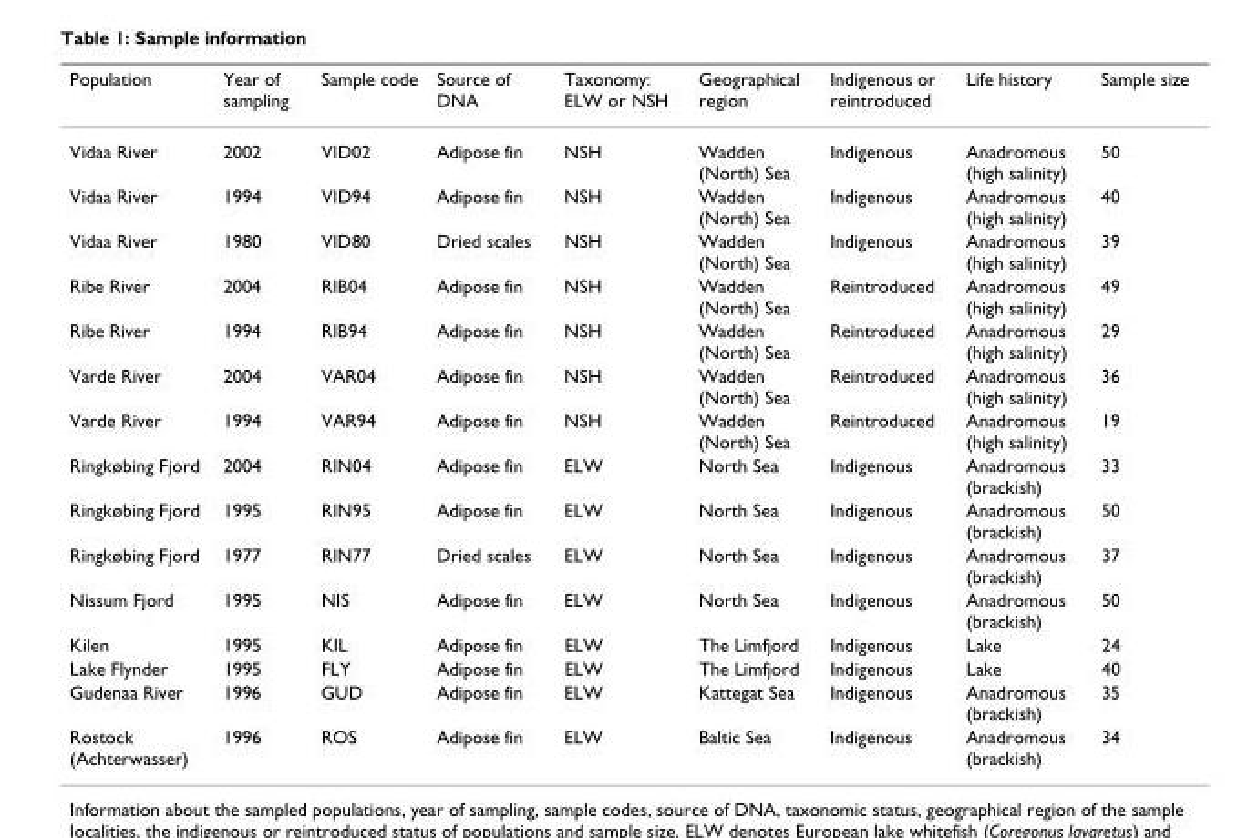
<table><thead><tr><td>Population</td><td>Year of sampling</td><td>Sample code</td><td>Source of DNA</td><td>Taxonomy: ELW or NSH</td><td>Geographical region</td><td>Indigenous or reintroduced</td><td>Life history</td><td>Sample size</td></tr></thead><tbody><tr><td>Vidaa River</td><td>2002</td><td>VID02</td><td>Adipose fin</td><td>NSH</td><td>Wadden (North) Sea</td><td>Indigenous</td><td>Anadromous (high salinity)</td><td>50</td></tr><tr><td>Vidaa River</td><td>1994</td><td>VID94</td><td>Adipose fin</td><td>NSH</td><td>Wadden (North) Sea</td><td>Indigenous</td><td>Anadromous (high salinity)</td><td>40</td></tr><tr><td>Vidaa River</td><td>1980</td><td>VID80</td><td>Dried scales</td><td>NSH</td><td>Wadden (North) Sea</td><td>Indigenous</td><td>Anadromous (high salinity)</td><td>39</td></tr><tr><td>Ribe River</td><td>2004</td><td>RIB04</td><td>Adipose fin</td><td>NSH</td><td>Wadden (North) Sea</td><td>Reintroduced</td><td>Anadromous (high salinity)</td><td>49</td></tr><tr><td>Ribe River</td><td>1994</td><td>RIB94</td><td>Adipose fin</td><td>NSH</td><td>Wadden (North) Sea</td><td>Reintroduced</td><td>Anadromous (high salinity)</td><td>29</td></tr><tr><td>Varde River</td><td>2004</td><td>VAR04</td><td>Adipose fin</td><td>NSH</td><td>Wadden (North) Sea</td><td>Reintroduced</td><td>Anadromous (high salinity)</td><td>36</td></tr><tr><td>Varde River</td><td>1994</td><td>VAR94</td><td>Adipose fin</td><td>NSH</td><td>Wadden (North) Sea</td><td>Reintroduced</td><td>Anadromous (high salinity)</td><td>19</td></tr><tr><td>Ringkøbing Fjord</td><td>2004</td><td>RIN04</td><td>Adipose fin</td><td>ELW</td><td>North Sea</td><td>Indigenous</td><td>Anadromous (brackish)</td><td>33</td></tr><tr><td>Ringkøbing Fjord</td><td>1995</td><td>RIN95</td><td>Adipose fin</td><td>ELW</td><td>North Sea</td><td>Indigenous</td><td>Anadromous (brackish)</td><td>50</td></tr><tr><td>Ringkøbing Fjord</td><td>1977</td><td>RIN77</td><td>Dried scales</td><td>ELW</td><td>North Sea</td><td>Indigenous</td><td>Anadromous (brackish)</td><td>37</td></tr><tr><td>Nissum Fjord</td><td>1995</td><td>NIS</td><td>Adipose fin</td><td>ELW</td><td>North Sea</td><td>Indigenous</td><td>Anadromous (brackish)</td><td>50</td></tr><tr><td>Kilen</td><td>1995</td><td>KIL</td><td>Adipose fin</td><td>ELW</td><td>The Limfjord</td><td>Indigenous</td><td>Lake</td><td>24</td></tr><tr><td>Lake Flynder</td><td>1995</td><td>FLY</td><td>Adipose fin</td><td>ELW</td><td>The Limfjord</td><td>Indigenous</td><td>Lake</td><td>40</td></tr><tr><td>Gudenaa River</td><td>1996</td><td>GUD</td><td>Adipose fin</td><td>ELW</td><td>Kattegat Sea</td><td>Indigenous</td><td>Anadromous (brackish)</td><td>35</td></tr><tr><td>Rostock (Achterwasser)</td><td>1996</td><td>ROS</td><td>Adipose fin</td><td>ELW</td><td>Baltic Sea</td><td>Indigenous</td><td>Anadromous (brackish)</td><td>34</td></tr></tbody></table>